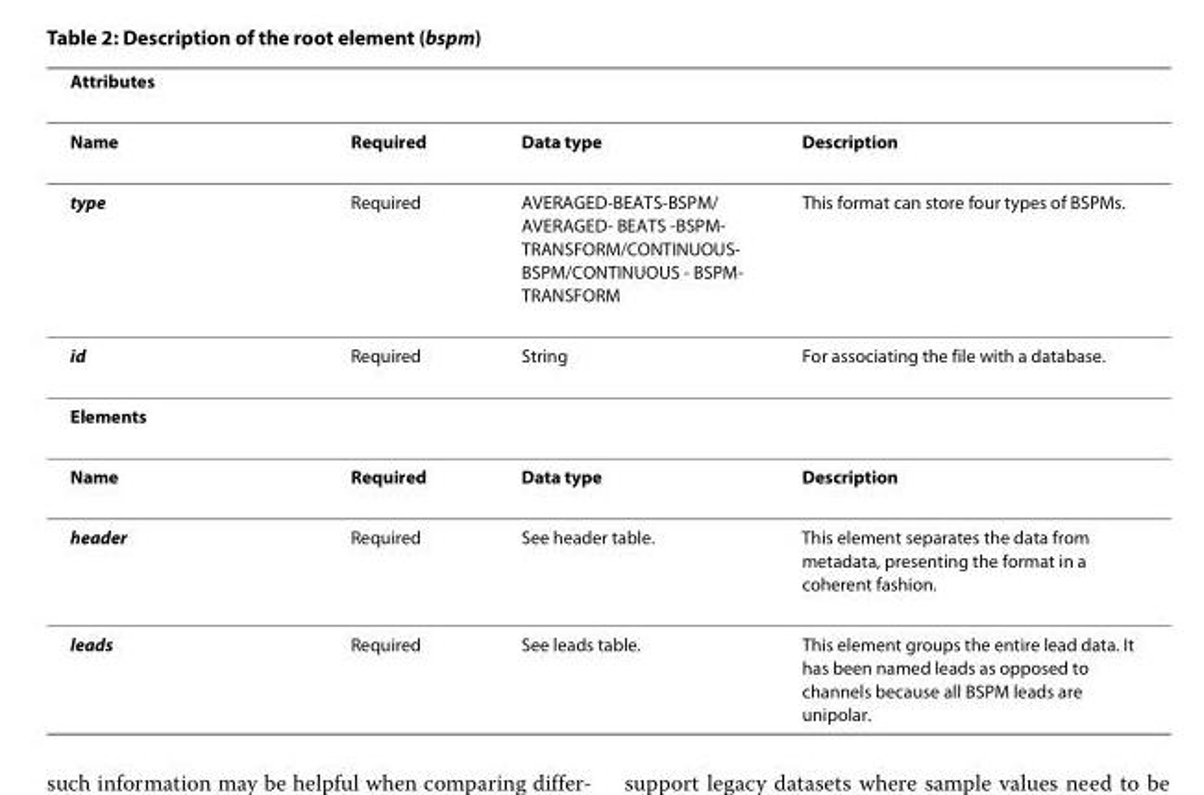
<table><thead><tr><td>Attributes</td><td></td><td></td><td></td></tr></thead><tbody><tr><td>Name</td><td>Required</td><td>Data type</td><td>Description</td></tr><tr><td>type</td><td>Required</td><td>AVERAGED-BEATS-BSPM/ AVERAGED- BEATS -BSPM- TRANSFORM/CONTINUOUS- BSPM/CONTINUOUS - BSPM- TRANSFORM</td><td>This format can store four types of BSPMs.</td></tr><tr><td>id</td><td>Required</td><td>String</td><td>For associating the file with a database.</td></tr><tr><td colspan="4">Elements</td></tr><tr><td>Name</td><td>Required</td><td>Data type</td><td>Description</td></tr><tr><td>header</td><td>Required</td><td>See header table.</td><td>This element separates the data from metadata, presenting the format in a coherent fashion.</td></tr><tr><td>leads</td><td>Required</td><td>See leads table.</td><td>This element groups the entire lead data. It has been named leads as opposed to channels because all BSPM leads are unipolar.</td></tr></tbody></table>